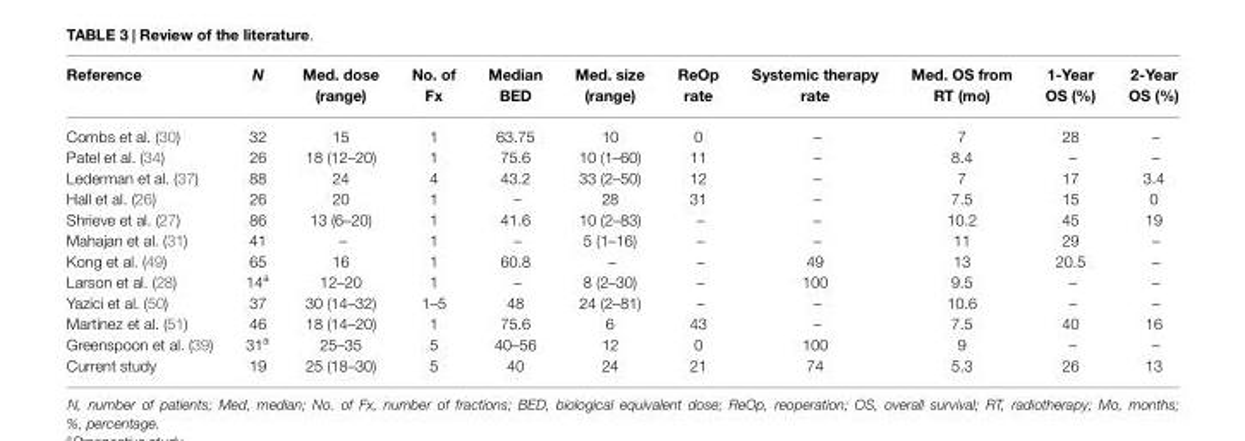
<table><thead><tr><td>Reference</td><td>N</td><td>Med. dose (range)</td><td>No. of Fx</td><td>Median BED</td><td>Med. size (range)</td><td>ReOp rate</td><td>Systemic therapy rate</td><td>Med. OS from RT (mo)</td><td>1-Year OS (%)</td><td>2-Year OS (%)</td></tr></thead><tbody><tr><td>Combs et al. (30)</td><td>32</td><td>15</td><td>1</td><td>63.75</td><td>10</td><td>0</td><td>–</td><td>7</td><td>28</td><td>–</td></tr><tr><td>Patel et al. (34)</td><td>26</td><td>18 (12–20)</td><td>1</td><td>75.6</td><td>10 (1–60)</td><td>11</td><td>–</td><td>8.4</td><td>–</td><td>–</td></tr><tr><td>Lederman et al. (37)</td><td>88</td><td>24</td><td>4</td><td>43.2</td><td>33 (2–50)</td><td>12</td><td>–</td><td>7</td><td>17</td><td>3.4</td></tr><tr><td>Hall et al. (26)</td><td>26</td><td>20</td><td>1</td><td>–</td><td>28</td><td>31</td><td>–</td><td>7.5</td><td>15</td><td>0</td></tr><tr><td>Shrieve et al. (27)</td><td>86</td><td>13 (6–20)</td><td>1</td><td>41.6</td><td>10 (2–83)</td><td>–</td><td>–</td><td>10.2</td><td>45</td><td>19</td></tr><tr><td>Mahajan et al. (31)</td><td>41</td><td>–</td><td>1</td><td>–</td><td>5 (1–16)</td><td>–</td><td>–</td><td>11</td><td>29</td><td>–</td></tr><tr><td>Kong et al. (49)</td><td>65</td><td>16</td><td>1</td><td>60.8</td><td>–</td><td>–</td><td>49</td><td>13</td><td>20.5</td><td>–</td></tr><tr><td>Larson et al. (28)</td><td>14<sup>a</sup></td><td>12–20</td><td>1</td><td>–</td><td>8 (2–30)</td><td>–</td><td>100</td><td>9.5</td><td>–</td><td>–</td></tr><tr><td>Yazici et al. (50)</td><td>37</td><td>30 (14–32)</td><td>1–5</td><td>48</td><td>24 (2–81)</td><td>–</td><td>–</td><td>10.6</td><td>–</td><td>–</td></tr><tr><td>Martinez et al. (51)</td><td>46</td><td>18 (14–20)</td><td>1</td><td>75.6</td><td>6</td><td>43</td><td>–</td><td>7.5</td><td>40</td><td>16</td></tr><tr><td>Greenspoon et al. (39)</td><td>31<sup>a</sup></td><td>25–35</td><td>5</td><td>40–56</td><td>12</td><td>0</td><td>100</td><td>9</td><td>–</td><td>–</td></tr><tr><td>Current study</td><td>19</td><td>25 (18–30)</td><td>5</td><td>40</td><td>24</td><td>21</td><td>74</td><td>5.3</td><td>26</td><td>13</td></tr></tbody></table>